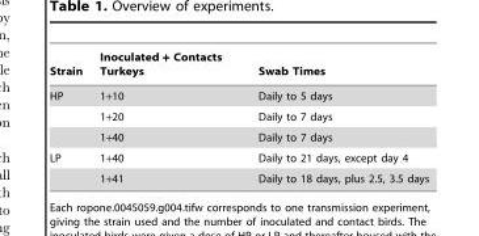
<table><thead><tr><td>Strain</td><td>Inoculated + Contacts Turkeys</td><td>Swab Times</td></tr></thead><tbody><tr><td rowspan="3">HP</td><td>1+10</td><td>Daily to 5 days</td></tr><tr><td>1+20</td><td>Daily to 7 days</td></tr><tr><td>1+40</td><td>Daily to 7 days</td></tr><tr><td rowspan="2">LP</td><td>1+40</td><td>Daily to 21 days, except day 4</td></tr><tr><td>1+41</td><td>Daily to 18 days, plus 2.5, 3.5 days</td></tr></tbody></table>